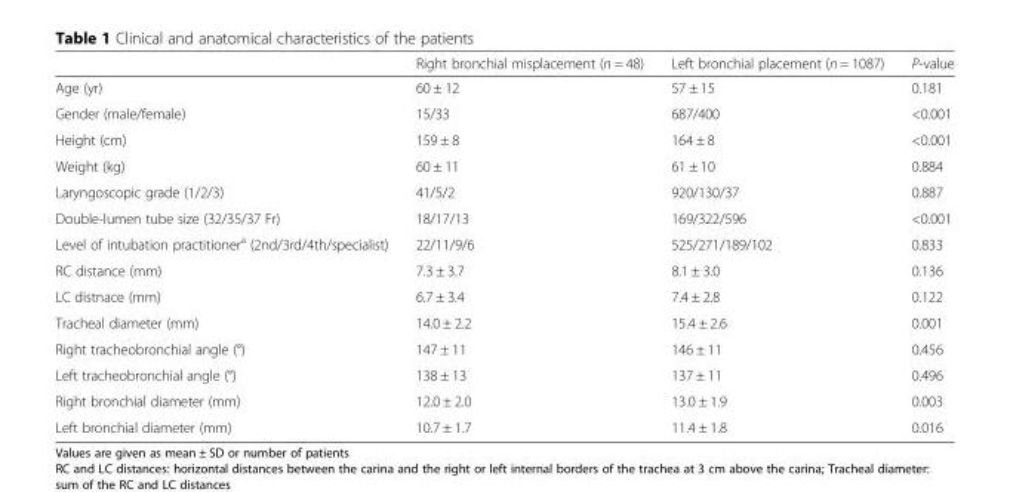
<table><thead><tr><td></td><td>Right bronchial misplacement (n = 48)</td><td>Left bronchial placement (n = 1087)</td><td>P-value</td></tr></thead><tbody><tr><td>Age (yr)</td><td>60 ± 12</td><td>57 ± 15</td><td>0.181</td></tr><tr><td>Gender (male/female)</td><td>15/33</td><td>687/400</td><td>&lt;0.001</td></tr><tr><td>Height (cm)</td><td>159 ± 8</td><td>164 ± 8</td><td>&lt;0.001</td></tr><tr><td>Weight (kg)</td><td>60 ± 11</td><td>61 ± 10</td><td>0.884</td></tr><tr><td>Laryngoscopic grade (1/2/3)</td><td>41/5/2</td><td>920/130/37</td><td>0.887</td></tr><tr><td>Double-lumen tube size (32/35/37 Fr)</td><td>18/17/13</td><td>169/322/596</td><td>&lt;0.001</td></tr><tr><td>Level of intubation practitioner<sup>a</sup> (2nd/3rd/4th/specialist)</td><td>22/11/9/6</td><td>525/271/189/102</td><td>0.833</td></tr><tr><td>RC distance (mm)</td><td>7.3 ± 3.7</td><td>8.1 ± 3.0</td><td>0.136</td></tr><tr><td>LC distnace (mm)</td><td>6.7 ± 3.4</td><td>7.4 ± 2.8</td><td>0.122</td></tr><tr><td>Tracheal diameter (mm)</td><td>14.0 ± 2.2</td><td>15.4 ± 2.6</td><td>0.001</td></tr><tr><td>Right tracheobronchial angle (°)</td><td>147 ± 11</td><td>146 ± 11</td><td>0.456</td></tr><tr><td>Left tracheobronchial angle (°)</td><td>138 ± 13</td><td>137 ± 11</td><td>0.496</td></tr><tr><td>Right bronchial diameter (mm)</td><td>12.0 ± 2.0</td><td>13.0 ± 1.9</td><td>0.003</td></tr><tr><td>Left bronchial diameter (mm)</td><td>10.7 ± 1.7</td><td>11.4 ± 1.8</td><td>0.016</td></tr></tbody></table>